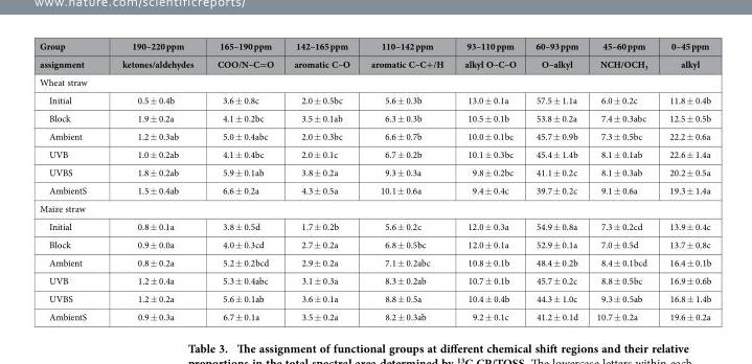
<table><thead><tr><td rowspan="2">Group assignment</td><td rowspan="2">190–220 ppm ketones/aldehydes</td><td rowspan="2">165–190 ppm COO/N–C=O</td><td rowspan="2">142–165 ppm aromatic C–O</td><td rowspan="2">110–142 ppm aromatic C–C+/H</td><td rowspan="2">93–110 ppm alkyl O–C–O</td><td rowspan="2">60–93 ppm O–alkyl</td><td rowspan="2">45–60 ppm NCH/OCH<sub>3</sub></td><td rowspan="2">0–45 ppm alkyl</td></tr><tr></tr></thead><tbody><tr><td colspan="9">Wheat straw</td></tr><tr><td>Initial</td><td>0.5 ± 0.4b</td><td>3.6 ± 0.8c</td><td>2.0 ± 0.5bc</td><td>5.6 ± 0.3b</td><td>13.0 ± 0.1a</td><td>57.5 ± 1.1a</td><td>6.0 ± 0.2c</td><td>11.8 ± 0.4b</td></tr><tr><td>Block</td><td>1.9 ± 0.2a</td><td>4.1 ± 0.2bc</td><td>3.5 ± 0.1ab</td><td>6.3 ± 0.3b</td><td>10.5 ± 0.1b</td><td>53.8 ± 0.2a</td><td>7.4 ± 0.3abc</td><td>12.5 ± 0.5b</td></tr><tr><td>Ambient</td><td>1.2 ± 0.3ab</td><td>5.0 ± 0.4abc</td><td>2.0 ± 0.3bc</td><td>6.6 ± 0.7b</td><td>10.0 ± 0.1bc</td><td>45.7 ± 0.9b</td><td>7.3 ± 0.5bc</td><td>22.2 ± 0.6a</td></tr><tr><td>UVB</td><td>1.0 ± 0.2ab</td><td>4.1 ± 0.4bc</td><td>2.0 ± 0.1c</td><td>6.7 ± 0.2b</td><td>10.1 ± 0.3bc</td><td>45.4 ± 1.4b</td><td>8.1 ± 0.1ab</td><td>22.6 ± 1.4a</td></tr><tr><td>UVBS</td><td>1.8 ± 0.2ab</td><td>5.9 ± 0.1ab</td><td>3.8 ± 0.2a</td><td>9.3 ± 0.3a</td><td>9.8 ± 0.2bc</td><td>41.1 ± 0.2c</td><td>8.1 ± 0.3ab</td><td>20.2 ± 0.5a</td></tr><tr><td>AmbientS</td><td>1.5 ± 0.4ab</td><td>6.6 ± 0.2a</td><td>4.3 ± 0.5a</td><td>10.1 ± 0.6a</td><td>9.4 ± 0.4c</td><td>39.7 ± 0.2c</td><td>9.1 ± 0.6a</td><td>19.3 ± 1.4a</td></tr><tr><td colspan="9">Maize straw</td></tr><tr><td>Initial</td><td>0.8 ± 0.1a</td><td>3.8 ± 0.5d</td><td>1.7 ± 0.2b</td><td>5.6 ± 0.2c</td><td>12.0 ± 0.3a</td><td>54.9 ± 0.8a</td><td>7.3 ± 0.2cd</td><td>13.9 ± 0.4c</td></tr><tr><td>Block</td><td>0.9 ± 0.0a</td><td>4.0 ± 0.3cd</td><td>2.7 ± 0.2a</td><td>6.8 ± 0.5bc</td><td>12.0 ± 0.1a</td><td>52.9 ± 0.1a</td><td>7.0 ± 0.5d</td><td>13.7 ± 0.8c</td></tr><tr><td>Ambient</td><td>0.8 ± 0.2a</td><td>5.2 ± 0.2bcd</td><td>2.9 ± 0.2a</td><td>7.1 ± 0.2abc</td><td>10.8 ± 0.1b</td><td>48.4 ± 0.2b</td><td>8.4 ± 0.1bcd</td><td>16.4 ± 0.1b</td></tr><tr><td>UVB</td><td>1.2 ± 0.4a</td><td>5.3 ± 0.4abc</td><td>3.1 ± 0.3a</td><td>8.3 ± 0.2ab</td><td>10.7 ± 0.1b</td><td>45.7 ± 0.2c</td><td>8.8 ± 0.5bc</td><td>16.9 ± 0.6b</td></tr><tr><td>UVBS</td><td>1.2 ± 0.2a</td><td>5.6 ± 0.1ab</td><td>3.6 ± 0.1a</td><td>8.8 ± 0.5a</td><td>10.4 ± 0.4b</td><td>44.3 ± 1.0c</td><td>9.3 ± 0.5ab</td><td>16.8 ± 1.4b</td></tr><tr><td>AmbientS</td><td>0.9 ± 0.3a</td><td>6.7 ± 0.1a</td><td>3.5 ± 0.2a</td><td>8.2 ± 0.3ab</td><td>9.2 ± 0.1c</td><td>41.2 ± 0.1d</td><td>10.7 ± 0.2a</td><td>19.6 ± 0.2a</td></tr></tbody></table>